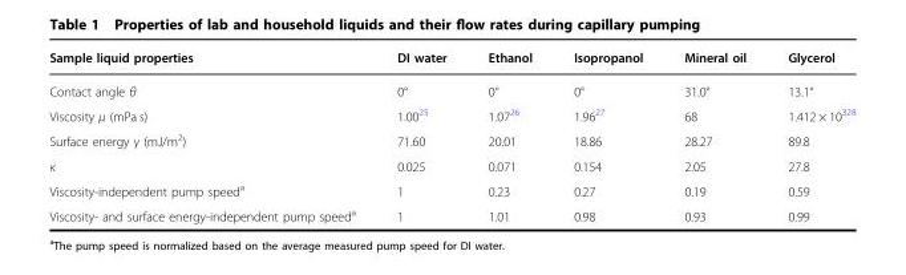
<table><thead><tr><td>Sample liquid properties</td><td>DI water</td><td>Ethanol</td><td>Isopropanol</td><td>Mineral oil</td><td>Glycerol</td></tr></thead><tbody><tr><td>Contact angle θ</td><td>0°</td><td>0°</td><td>0°</td><td>31.0°</td><td>13.1°</td></tr><tr><td>Viscosity μ (mPa s)</td><td>1.00<sup>25</sup></td><td>1.07<sup>26</sup></td><td>1.96<sup>27</sup></td><td>68</td><td>1.412 × 10<sup>328</sup></td></tr><tr><td>Surface energy γ (mJ/m<sup>2</sup>)</td><td>71.60</td><td>20.01</td><td>18.86</td><td>28.27</td><td>89.8</td></tr><tr><td>κ</td><td>0.025</td><td>0.071</td><td>0.154</td><td>2.05</td><td>27.8</td></tr><tr><td>Viscosity-independent pump speed<sup>a</sup></td><td>1</td><td>0.23</td><td>0.27</td><td>0.19</td><td>0.59</td></tr><tr><td>Viscosity- and surface energy-independent pump speed<sup>a</sup></td><td>1</td><td>1.01</td><td>0.98</td><td>0.93</td><td>0.99</td></tr></tbody></table>